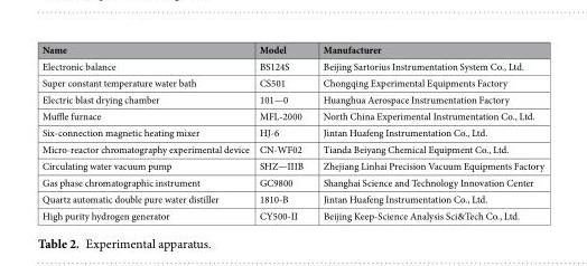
<table><thead><tr><td>Name</td><td>Model</td><td>Manufacturer</td></tr></thead><tbody><tr><td>Electronic balance</td><td>BS124S</td><td>Beijing Sartorius Instrumentation System Co., Ltd.</td></tr><tr><td>Super constant temperature water bath</td><td>CS501</td><td>Chongqing Experimental Equipments Factory</td></tr><tr><td>Electric blast drying chamber</td><td>101—0</td><td>Huanghua Aerospace Instrumentation Factory</td></tr><tr><td>Muffle furnace</td><td>MFL-2000</td><td>North China Experimental Instrumentation Co., Ltd.</td></tr><tr><td>Six-connection magnetic heating mixer</td><td>HJ-6</td><td>Jintan Huafeng Instrumentation Co., Ltd.</td></tr><tr><td>Micro-reactor chromatography experimental device</td><td>CN-WF02</td><td>Tianda Beiyang Chemical Equipment Co., Ltd.</td></tr><tr><td>Circulating water vacuum pump</td><td>SHZ—IIIB</td><td>Zhejiang Linhai Precision Vacuum Equipments Factory</td></tr><tr><td>Gas phase chromatographic instrument</td><td>GC9800</td><td>Shanghai Science and Technology Innovation Center</td></tr><tr><td>Quartz automatic double pure water distiller</td><td>1810-B</td><td>Jintan Huafeng Instrumentation Co., Ltd.</td></tr><tr><td>High purity hydrogen generator</td><td>CY500-II</td><td>Beijing Keep-Science Analysis Sci&amp;Tech Co., Ltd.</td></tr></tbody></table>